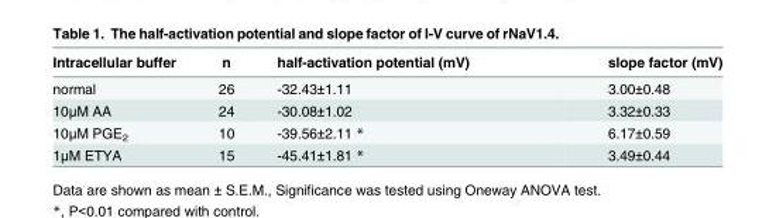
<table><thead><tr><td>Intracellular buffer</td><td>n</td><td>half-activation potential (mV)</td><td>slope factor (mV)</td></tr></thead><tbody><tr><td>normal</td><td>26</td><td>-32.43±1.11</td><td>3.00±0.48</td></tr><tr><td>10μM AA</td><td>24</td><td>-30.08±1.02</td><td>3.32±0.33</td></tr><tr><td>10μM PGE<sub>2</sub></td><td>10</td><td>-39.56±2.11 *</td><td>6.17±0.59</td></tr><tr><td>1μM ETYA</td><td>15</td><td>-45.41±1.81 *</td><td>3.49±0.44</td></tr></tbody></table>